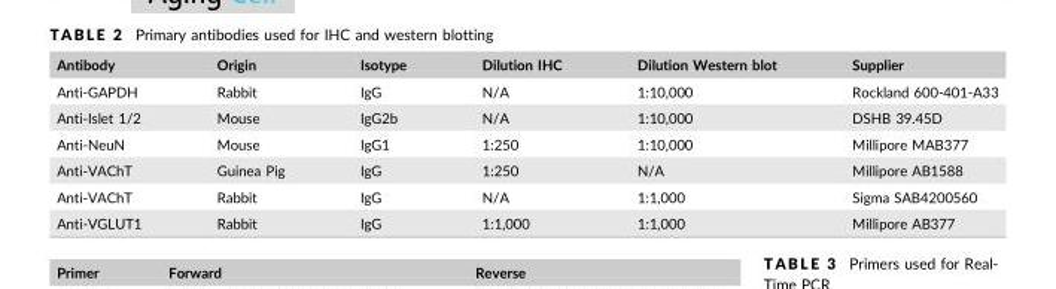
<table><thead><tr><td>Antibody</td><td>Origin</td><td>Isotype</td><td>Dilution IHC</td><td>Dilution Western blot</td><td>Supplier</td></tr></thead><tbody><tr><td>Anti-GAPDH</td><td>Rabbit</td><td>IgG</td><td>N/A</td><td>1:10,000</td><td>Rockland 600-401-A33</td></tr><tr><td>Anti-Islet 1/2</td><td>Mouse</td><td>IgG2b</td><td>N/A</td><td>1:10,000</td><td>DSHB 39.45D</td></tr><tr><td>Anti-NeuN</td><td>Mouse</td><td>IgG1</td><td>1:250</td><td>1:10,000</td><td>Millipore MAB377</td></tr><tr><td>Anti-VAChT</td><td>Guinea Pig</td><td>IgG</td><td>1:250</td><td>N/A</td><td>Millipore AB1588</td></tr><tr><td>Anti-VAChT</td><td>Rabbit</td><td>IgG</td><td>N/A</td><td>1:1,000</td><td>Sigma SAB4200560</td></tr><tr><td>Anti-VGLUT1</td><td>Rabbit</td><td>IgG</td><td>1:1,000</td><td>1:1,000</td><td>Millipore AB377</td></tr></tbody></table>